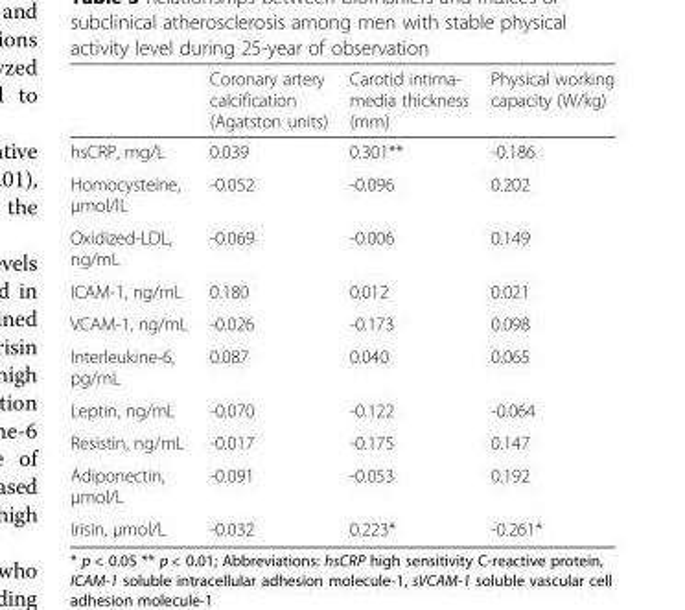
<table><thead><tr><td></td><td>Coronary artery calcification (Agatston units)</td><td>Carotid intima- media thickness (mm)</td><td>Physical working capacity (W/kg)</td></tr></thead><tbody><tr><td>hsCRP, mg/L</td><td>0.039</td><td>0.301**</td><td>-0.186</td></tr><tr><td>Homocysteine, μmol/lL</td><td>-0.052</td><td>-0.096</td><td>0.202</td></tr><tr><td>Oxidized-LDL, ng/mL</td><td>-0.069</td><td>-0.006</td><td>0.149</td></tr><tr><td>ICAM-1, ng/mL</td><td>0.180</td><td>0.012</td><td>0.021</td></tr><tr><td>VCAM-1, ng/mL</td><td>-0.026</td><td>-0.173</td><td>0.098</td></tr><tr><td>Interleukine-6, pg/mL</td><td>0.087</td><td>0.040</td><td>0.065</td></tr><tr><td>Leptin, ng/mL</td><td>-0.070</td><td>-0.122</td><td>-0.064</td></tr><tr><td>Resistin, ng/mL</td><td>-0.017</td><td>-0.175</td><td>0.147</td></tr><tr><td>Adiponectin, μmol/L</td><td>-0.091</td><td>-0.053</td><td>0.192</td></tr><tr><td>Irisin, μmol/L</td><td>-0.032</td><td>0.223*</td><td>-0.261*</td></tr></tbody></table>